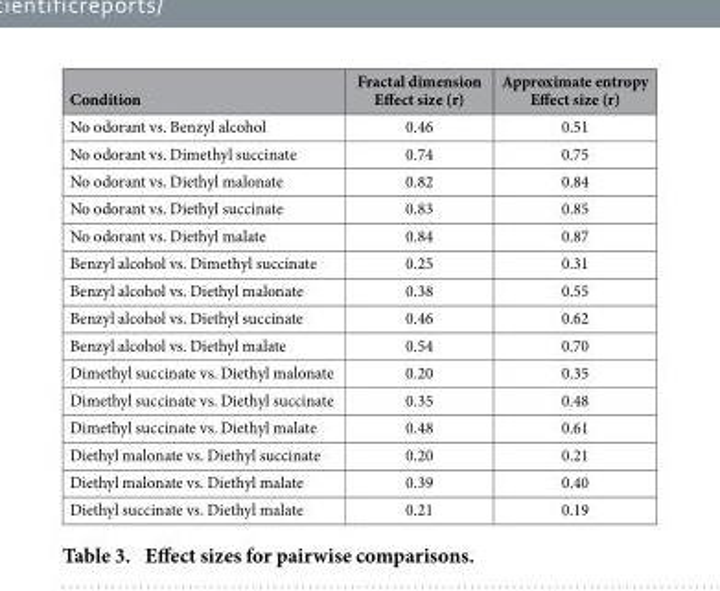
<table><thead><tr><td>Condition</td><td>Fractal dimension Effect size (r)</td><td>Approximate entropy Effect size (r)</td></tr></thead><tbody><tr><td>No odorant vs. Benzyl alcohol</td><td>0.46</td><td>0.51</td></tr><tr><td>No odorant vs. Dimethyl succinate</td><td>0.74</td><td>0.75</td></tr><tr><td>No odorant vs. Diethyl malonate</td><td>0.82</td><td>0.84</td></tr><tr><td>No odorant vs. Diethyl succinate</td><td>0.83</td><td>0.85</td></tr><tr><td>No odorant vs. Diethyl malate</td><td>0.84</td><td>0.87</td></tr><tr><td>Benzyl alcohol vs. Dimethyl succinate</td><td>0.25</td><td>0.31</td></tr><tr><td>Benzyl alcohol vs. Diethyl malonate</td><td>0.38</td><td>0.55</td></tr><tr><td>Benzyl alcohol vs. Diethyl succinate</td><td>0.46</td><td>0.62</td></tr><tr><td>Benzyl alcohol vs. Diethyl malate</td><td>0.54</td><td>0.70</td></tr><tr><td>Dimethyl succinate vs. Diethyl malonate</td><td>0.20</td><td>0.35</td></tr><tr><td>Dimethyl succinate vs. Diethyl succinate</td><td>0.35</td><td>0.48</td></tr><tr><td>Dimethyl succinate vs. Diethyl malate</td><td>0.48</td><td>0.61</td></tr><tr><td>Diethyl malonate vs. Diethyl succinate</td><td>0.20</td><td>0.21</td></tr><tr><td>Diethyl malonate vs. Diethyl malate</td><td>0.39</td><td>0.40</td></tr><tr><td>Diethyl succinate vs. Diethyl malate</td><td>0.21</td><td>0.19</td></tr></tbody></table>